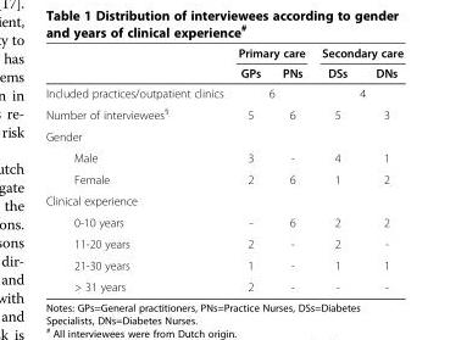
<table><thead><tr><td rowspan="2"></td><td colspan="2">Primary care</td><td colspan="2">Secondary care</td></tr><tr><td>GPs</td><td>PNs</td><td>DSs</td><td>DNs</td></tr></thead><tbody><tr><td>Included practices/outpatient clinics</td><td colspan="2">6</td><td colspan="2">4</td></tr><tr><td>Number of interviewees<sup>§</sup></td><td>5</td><td>6</td><td>5</td><td>3</td></tr><tr><td colspan="5">Gender</td></tr><tr><td>Male</td><td>3</td><td>-</td><td>4</td><td>1</td></tr><tr><td>Female</td><td>2</td><td>6</td><td>1</td><td>2</td></tr><tr><td colspan="5">Clinical experience</td></tr><tr><td>0-10 years</td><td>-</td><td>6</td><td>2</td><td>2</td></tr><tr><td>11-20 years</td><td>2</td><td>-</td><td>2</td><td>-</td></tr><tr><td>21-30 years</td><td>1</td><td>-</td><td>1</td><td>1</td></tr><tr><td>&gt; 31 years</td><td>2</td><td>-</td><td>-</td><td>-</td></tr></tbody></table>